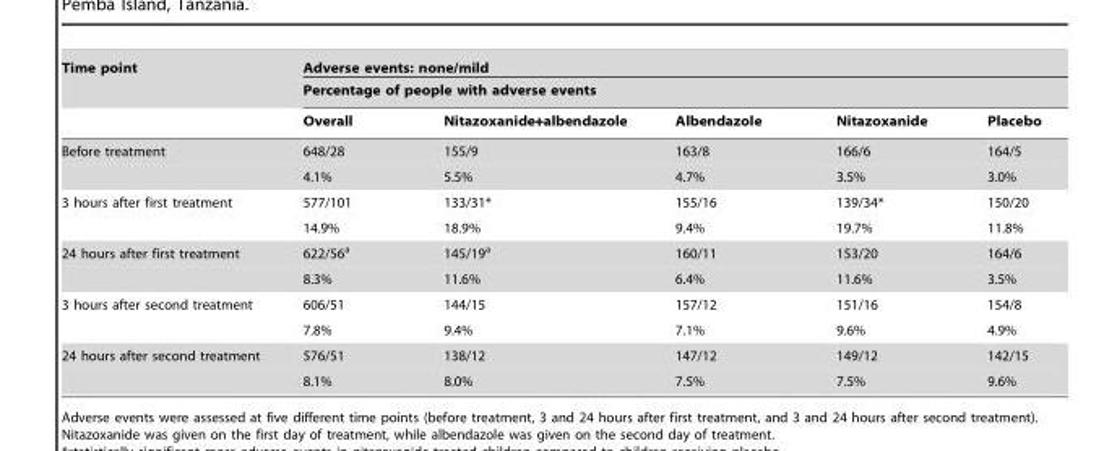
<table><thead><tr><td rowspan="3">Time point</td><td rowspan="2" colspan="5">Adverse events: none/mild Percentage of people with adverse events</td></tr><tr></tr><tr><td>Overall</td><td>Nitazoxanide+albendazole</td><td>Albendazole</td><td>Nitazoxanide</td><td>Placebo</td></tr></thead><tbody><tr><td rowspan="2">Before treatment</td><td>648/28</td><td>155/9</td><td>163/8</td><td>166/6</td><td>164/5</td></tr><tr><td>4.1%</td><td>5.5%</td><td>4.7%</td><td>3.5%</td><td>3.0%</td></tr><tr><td rowspan="2">3 hours after first treatment</td><td>577/101</td><td>133/31*</td><td>155/16</td><td>139/34*</td><td>150/20</td></tr><tr><td>14.9%</td><td>18.9%</td><td>9.4%</td><td>19.7%</td><td>11.8%</td></tr><tr><td rowspan="2">24 hours after first treatment</td><td>622/56<sup>a</sup></td><td>145/19<sup>a</sup></td><td>160/11</td><td>153/20</td><td>164/6</td></tr><tr><td>8.3%</td><td>11.6%</td><td>6.4%</td><td>11.6%</td><td>3.5%</td></tr><tr><td rowspan="2">3 hours after second treatment</td><td>606/51</td><td>144/15</td><td>157/12</td><td>151/16</td><td>154/8</td></tr><tr><td>7.8%</td><td>9.4%</td><td>7.1%</td><td>9.6%</td><td>4.9%</td></tr><tr><td rowspan="2">24 hours after second treatment</td><td>576/51</td><td>138/12</td><td>147/12</td><td>149/12</td><td>142/15</td></tr><tr><td>8.1%</td><td>8.0%</td><td>7.5%</td><td>7.5%</td><td>9.6%</td></tr></tbody></table>